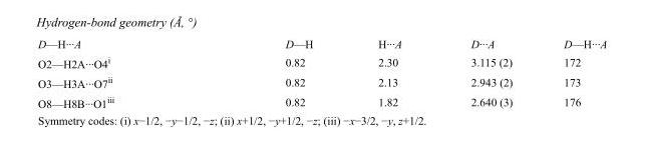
<table><tbody><tr><td>D—H···A</td><td>D—H</td><td>H···A</td><td>D···A</td><td>D—H···A</td></tr><tr><td>O2—H2A···O4<sup>i</sup></td><td>0.82</td><td>2.30</td><td>3.115 (2)</td><td>172</td></tr><tr><td>O3—H3A···O7<sup>ii</sup></td><td>0.82</td><td>2.13</td><td>2.943 (2)</td><td>173</td></tr><tr><td>O8—H8B···O1<sup>iii</sup></td><td>0.82</td><td>1.82</td><td>2.640 (3)</td><td>176</td></tr></tbody></table>